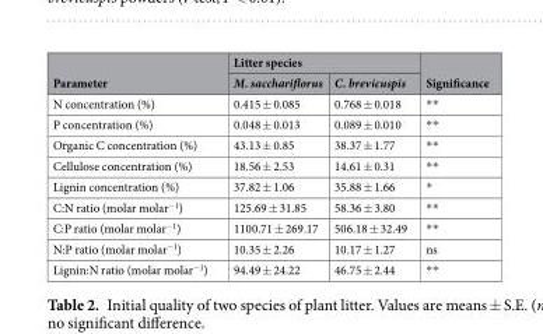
<table><thead><tr><td rowspan="2">Parameter</td><td colspan="2">Litter species</td><td rowspan="2">Significance</td></tr><tr><td>M. sacchariflorus</td><td>C. brevicuspis</td></tr></thead><tbody><tr><td>N concentration (%)</td><td>0.415 ± 0.085</td><td>0.768 ± 0.018</td><td>**</td></tr><tr><td>P concentration (%)</td><td>0.048 ± 0.013</td><td>0.089 ± 0.010</td><td>**</td></tr><tr><td>Organic C concentration (%)</td><td>43.13 ± 0.85</td><td>38.37 ± 1.77</td><td>**</td></tr><tr><td>Cellulose concentration (%)</td><td>18.56 ± 2.53</td><td>14.61 ± 0.31</td><td>**</td></tr><tr><td>Lignin concentration (%)</td><td>37.82 ± 1.06</td><td>35.88 ± 1.66</td><td>*</td></tr><tr><td>C:N ratio (molar molar<sup>−1</sup>)</td><td>125.69 ± 31.85</td><td>58.36 ± 3.80</td><td>**</td></tr><tr><td>C:P ratio (molar molar<sup>−1</sup>)</td><td>1100.71 ± 269.17</td><td>506.18 ± 32.49</td><td>**</td></tr><tr><td>N:P ratio (molar molar<sup>−1</sup>)</td><td>10.35 ± 2.26</td><td>10.17 ± 1.27</td><td>ns</td></tr><tr><td>Lignin:N ratio (molar molar<sup>−1</sup>)</td><td>94.49 ± 24.22</td><td>46.75 ± 2.44</td><td>**</td></tr></tbody></table>